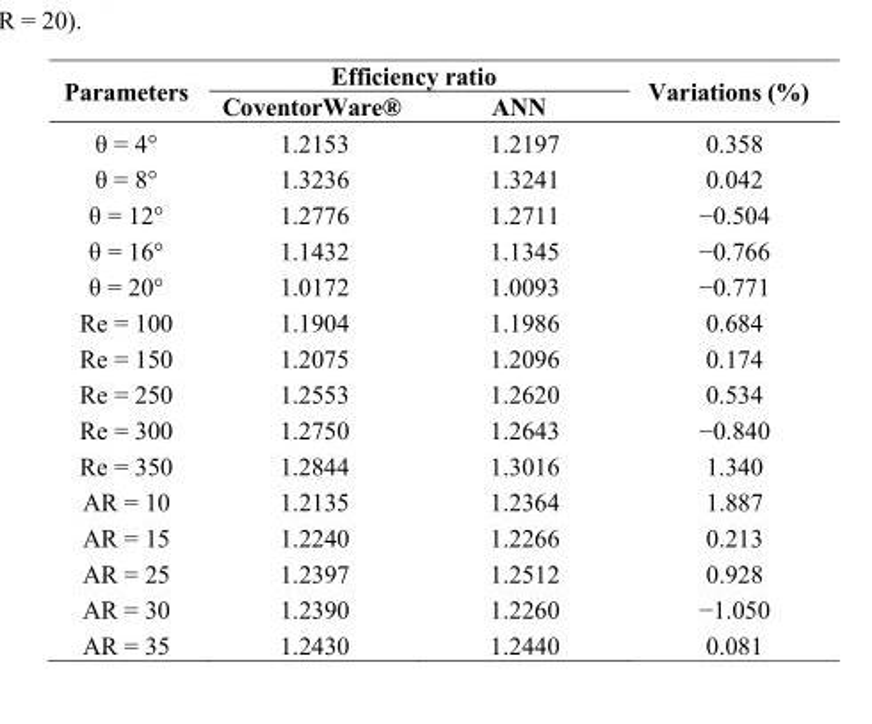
<table><thead><tr><td rowspan="2">Parameters</td><td colspan="2">Efficiency ratio</td><td rowspan="2">Variations (%)</td></tr><tr><td>CoventorWare®</td><td>ANN</td></tr></thead><tbody><tr><td>θ = 4°</td><td>1.2153</td><td>1.2197</td><td>0.358</td></tr><tr><td>θ = 8°</td><td>1.3236</td><td>1.3241</td><td>0.042</td></tr><tr><td>θ = 12°</td><td>1.2776</td><td>1.2711</td><td>−0.504</td></tr><tr><td>θ = 16°</td><td>1.1432</td><td>1.1345</td><td>−0.766</td></tr><tr><td>θ = 20°</td><td>1.0172</td><td>1.0093</td><td>−0.771</td></tr><tr><td>Re = 100</td><td>1.1904</td><td>1.1986</td><td>0.684</td></tr><tr><td>Re = 150</td><td>1.2075</td><td>1.2096</td><td>0.174</td></tr><tr><td>Re = 250</td><td>1.2553</td><td>1.2620</td><td>0.534</td></tr><tr><td>Re = 300</td><td>1.2750</td><td>1.2643</td><td>−0.840</td></tr><tr><td>Re = 350</td><td>1.2844</td><td>1.3016</td><td>1.340</td></tr><tr><td>AR = 10</td><td>1.2135</td><td>1.2364</td><td>1.887</td></tr><tr><td>AR = 15</td><td>1.2240</td><td>1.2266</td><td>0.213</td></tr><tr><td>AR = 25</td><td>1.2397</td><td>1.2512</td><td>0.928</td></tr><tr><td>AR = 30</td><td>1.2390</td><td>1.2260</td><td>−1.050</td></tr><tr><td>AR = 35</td><td>1.2430</td><td>1.2440</td><td>0.081</td></tr></tbody></table>